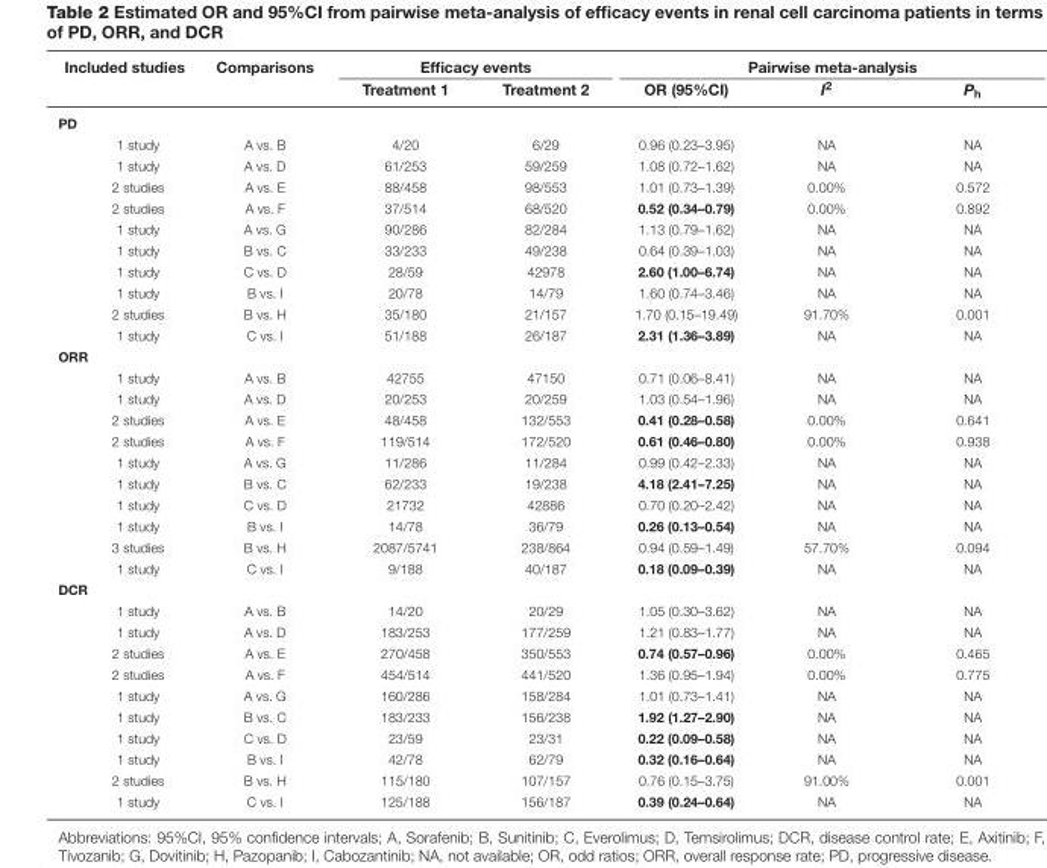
<table><thead><tr><td rowspan="2">Included studies</td><td rowspan="2">Comparisons</td><td colspan="2">Efficacy events</td><td colspan="3">Pairwise meta-analysis</td></tr><tr><td>Treatment 1</td><td>Treatment 2</td><td>OR (95%CI)</td><td>I<sup>2</sup></td><td>P<sub>h</sub></td></tr></thead><tbody><tr><td colspan="7">PD</td></tr><tr><td>1 study</td><td>A vs. B</td><td>4/20</td><td>6/29</td><td>0.96 (0.23–3.95)</td><td>NA</td><td>NA</td></tr><tr><td>1 study</td><td>A vs. D</td><td>61/253</td><td>59/259</td><td>1.08 (0.72–1.62)</td><td>NA</td><td>NA</td></tr><tr><td>2 studies</td><td>A vs. E</td><td>88/458</td><td>98/553</td><td>1.01 (0.73–1.39)</td><td>0.00%</td><td>0.572</td></tr><tr><td>2 studies</td><td>A vs. F</td><td>37/514</td><td>68/520</td><td>0.52 (0.34–0.79)</td><td>0.00%</td><td>0.892</td></tr><tr><td>1 study</td><td>A vs. G</td><td>90/286</td><td>82/284</td><td>1.13 (0.79–1.62)</td><td>NA</td><td>NA</td></tr><tr><td>1 study</td><td>B vs. C</td><td>33/233</td><td>49/238</td><td>0.64 (0.39–1.03)</td><td>NA</td><td>NA</td></tr><tr><td>1 study</td><td>C vs. D</td><td>28/59</td><td>42978</td><td>2.60 (1.00–6.74)</td><td>NA</td><td>NA</td></tr><tr><td>1 study</td><td>B vs. I</td><td>20/78</td><td>14/79</td><td>1.60 (0.74–3.46)</td><td>NA</td><td>NA</td></tr><tr><td>2 studies</td><td>B vs. H</td><td>35/180</td><td>21/157</td><td>1.70 (0.15–19.49)</td><td>91.70%</td><td>0.001</td></tr><tr><td>1 study</td><td>C vs. I</td><td>51/188</td><td>26/187</td><td>2.31 (1.36–3.89)</td><td>NA</td><td>NA</td></tr><tr><td colspan="7">ORR</td></tr><tr><td>1 study</td><td>A vs. B</td><td>42755</td><td>47150</td><td>0.71 (0.06–8.41)</td><td>NA</td><td>NA</td></tr><tr><td>1 study</td><td>A vs. D</td><td>20/253</td><td>20/259</td><td>1.03 (0.54–1.96)</td><td>NA</td><td>NA</td></tr><tr><td>2 studies</td><td>A vs. E</td><td>48/458</td><td>132/553</td><td>0.41 (0.28–0.58)</td><td>0.00%</td><td>0.641</td></tr><tr><td>2 studies</td><td>A vs. F</td><td>119/514</td><td>172/520</td><td>0.61 (0.46–0.80)</td><td>0.00%</td><td>0.938</td></tr><tr><td>1 study</td><td>A vs. G</td><td>11/286</td><td>11/284</td><td>0.99 (0.42–2.33)</td><td>NA</td><td>NA</td></tr><tr><td>1 study</td><td>B vs. C</td><td>62/233</td><td>19/238</td><td>4.18 (2.41–7.25)</td><td>NA</td><td>NA</td></tr><tr><td>1 study</td><td>C vs. D</td><td>21732</td><td>42886</td><td>0.70 (0.20–2.42)</td><td>NA</td><td>NA</td></tr><tr><td>1 study</td><td>B vs. I</td><td>14/78</td><td>36/79</td><td>0.26 (0.13–0.54)</td><td>NA</td><td>NA</td></tr><tr><td>3 studies</td><td>B vs. H</td><td>2087/5741</td><td>238/864</td><td>0.94 (0.59–1.49)</td><td>57.70%</td><td>0.094</td></tr><tr><td>1 study</td><td>C vs. I</td><td>9/188</td><td>40/187</td><td>0.18 (0.09–0.39)</td><td>NA</td><td>NA</td></tr><tr><td colspan="7">DCR</td></tr><tr><td>1 study</td><td>A vs. B</td><td>14/20</td><td>20/29</td><td>1.05 (0.30–3.62)</td><td>NA</td><td>NA</td></tr><tr><td>1 study</td><td>A vs. D</td><td>183/253</td><td>177/259</td><td>1.21 (0.83–1.77)</td><td>NA</td><td>NA</td></tr><tr><td>2 studies</td><td>A vs. E</td><td>270/458</td><td>350/553</td><td>0.74 (0.57–0.96)</td><td>0.00%</td><td>0.465</td></tr><tr><td>2 studies</td><td>A vs. F</td><td>454/514</td><td>441/520</td><td>1.36 (0.95–1.94)</td><td>0.00%</td><td>0.775</td></tr><tr><td>1 study</td><td>A vs. G</td><td>160/286</td><td>158/284</td><td>1.01 (0.73–1.41)</td><td>NA</td><td>NA</td></tr><tr><td>1 study</td><td>B vs. C</td><td>183/233</td><td>156/238</td><td>1.92 (1.27–2.90)</td><td>NA</td><td>NA</td></tr><tr><td>1 study</td><td>C vs. D</td><td>23/59</td><td>23/31</td><td>0.22 (0.09–0.58)</td><td>NA</td><td>NA</td></tr><tr><td>1 study</td><td>B vs. I</td><td>42/78</td><td>62/79</td><td>0.32 (0.16–0.64)</td><td>NA</td><td>NA</td></tr><tr><td>2 studies</td><td>B vs. H</td><td>115/180</td><td>107/157</td><td>0.76 (0.15–3.75)</td><td>91.00%</td><td>0.001</td></tr><tr><td>1 study</td><td>C vs. I</td><td>125/188</td><td>156/187</td><td>0.39 (0.24–0.64)</td><td>NA</td><td>NA</td></tr></tbody></table>